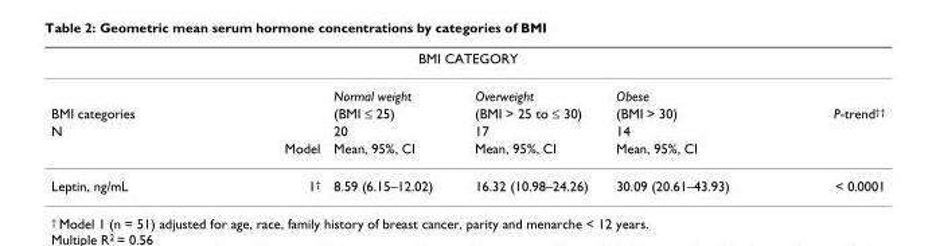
<table><thead><tr><td colspan="6">BMI CATEGORY</td></tr><tr><td></td><td></td><td>Normal weight</td><td>Overweight</td><td>Obese</td><td></td></tr></thead><tbody><tr><td>BMI categories</td><td></td><td>(BMI ≤ 25)</td><td>(BMI &gt; 25 to ≤ 30)</td><td>(BMI &gt; 30)</td><td>P-trend<sup>††</sup></td></tr><tr><td rowspan="2">N</td><td></td><td>20</td><td>17</td><td>14</td><td></td></tr><tr><td>Model</td><td>Mean, 95%, CI</td><td>Mean, 95%, CI</td><td>Mean, 95%, CI</td><td></td></tr><tr><td>Leptin, ng/mL</td><td>1<sup>†</sup></td><td>8.59 (6.15–12.02)</td><td>16.32 (10.98–24.26)</td><td>30.09 (20.61–43.93)</td><td>&lt; 0.0001</td></tr></tbody></table>